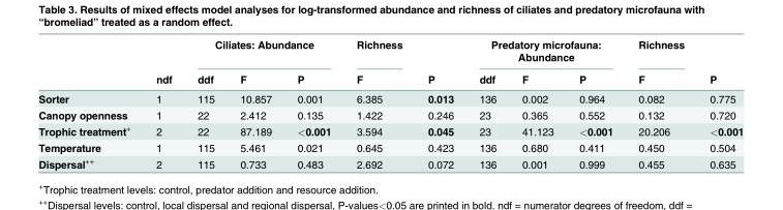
<table><thead><tr><td rowspan="2"></td><td rowspan="2">ndf</td><td colspan="3">Ciliates: Abundance</td><td rowspan="2">Richness F</td><td rowspan="2">P</td><td colspan="3">Predatory microfauna: Abundance</td><td rowspan="2">Richness F</td><td rowspan="2">P</td></tr><tr><td>ddf</td><td>F</td><td>P</td><td>ddf</td><td>F</td><td>P</td></tr></thead><tbody><tr><td>Sorter</td><td>1</td><td>115</td><td>10.857</td><td>0.001</td><td>6.385</td><td>0.013</td><td>136</td><td>0.002</td><td>0.964</td><td>0.082</td><td>0.775</td></tr><tr><td>Canopy openness</td><td>1</td><td>22</td><td>2.412</td><td>0.135</td><td>1.422</td><td>0.246</td><td>23</td><td>0.365</td><td>0.552</td><td>0.132</td><td>0.720</td></tr><tr><td>Trophic treatment<sup>+</sup></td><td>2</td><td>22</td><td>87.189</td><td>&lt;0.001</td><td>3.594</td><td>0.045</td><td>23</td><td>41.123</td><td>&lt;0.001</td><td>20.206</td><td>&lt;0.001</td></tr><tr><td>Temperature</td><td>1</td><td>115</td><td>5.461</td><td>0.021</td><td>0.645</td><td>0.423</td><td>136</td><td>0.680</td><td>0.411</td><td>0.450</td><td>0.504</td></tr><tr><td>Dispersal<sup>++</sup></td><td>2</td><td>115</td><td>0.733</td><td>0.483</td><td>2.692</td><td>0.072</td><td>136</td><td>0.001</td><td>0.999</td><td>0.455</td><td>0.635</td></tr></tbody></table>